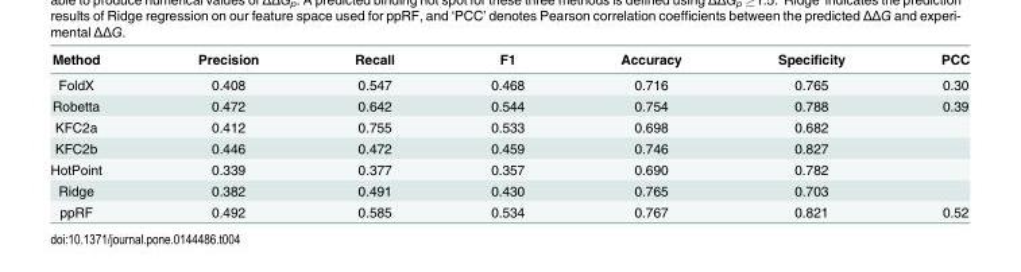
<table><thead><tr><td>Method</td><td>Precision</td><td>Recall</td><td>F1</td><td>Accuracy</td><td>Specificity</td><td>PCC</td></tr></thead><tbody><tr><td>FoldX</td><td>0.408</td><td>0.547</td><td>0.468</td><td>0.716</td><td>0.765</td><td>0.30</td></tr><tr><td>Robetta</td><td>0.472</td><td>0.642</td><td>0.544</td><td>0.754</td><td>0.788</td><td>0.39</td></tr><tr><td>KFC2a</td><td>0.412</td><td>0.755</td><td>0.533</td><td>0.698</td><td>0.682</td><td></td></tr><tr><td>KFC2b</td><td>0.446</td><td>0.472</td><td>0.459</td><td>0.746</td><td>0.827</td><td></td></tr><tr><td>HotPoint</td><td>0.339</td><td>0.377</td><td>0.357</td><td>0.690</td><td>0.782</td><td></td></tr><tr><td>Ridge</td><td>0.382</td><td>0.491</td><td>0.430</td><td>0.765</td><td>0.703</td><td></td></tr><tr><td>ppRF</td><td>0.492</td><td>0.585</td><td>0.534</td><td>0.767</td><td>0.821</td><td>0.52</td></tr></tbody></table>